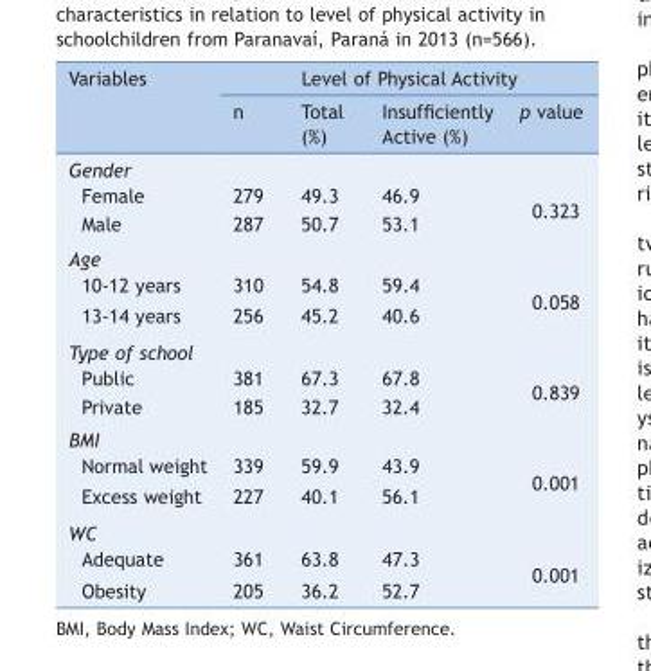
<table><thead><tr><td rowspan="2">Variables</td><td colspan="4">Level of Physical Activity</td></tr><tr><td>n</td><td>Total (%)</td><td>Insufficiently Active (%)</td><td>p value</td></tr></thead><tbody><tr><td colspan="5">Gender</td></tr><tr><td>Female</td><td>279</td><td>49.3</td><td>46.9</td><td rowspan="2">0.323</td></tr><tr><td>Male</td><td>287</td><td>50.7</td><td>53.1</td></tr><tr><td colspan="5">Age</td></tr><tr><td>10-12 years</td><td>310</td><td>54.8</td><td>59.4</td><td rowspan="2">0.058</td></tr><tr><td>13-14 years</td><td>256</td><td>45.2</td><td>40.6</td></tr><tr><td colspan="5">Type of school</td></tr><tr><td>Public</td><td>381</td><td>67.3</td><td>67.8</td><td rowspan="2">0.839</td></tr><tr><td>Private</td><td>185</td><td>32.7</td><td>32.4</td></tr><tr><td colspan="5">BMI</td></tr><tr><td>Normal weight</td><td>339</td><td>59.9</td><td>43.9</td><td rowspan="2">0.001</td></tr><tr><td>Excess weight</td><td>227</td><td>40.1</td><td>56.1</td></tr><tr><td colspan="5">WC</td></tr><tr><td>Adequate</td><td>361</td><td>63.8</td><td>47.3</td><td rowspan="2">0.001</td></tr><tr><td>Obesity</td><td>205</td><td>36.2</td><td>52.7</td></tr></tbody></table>